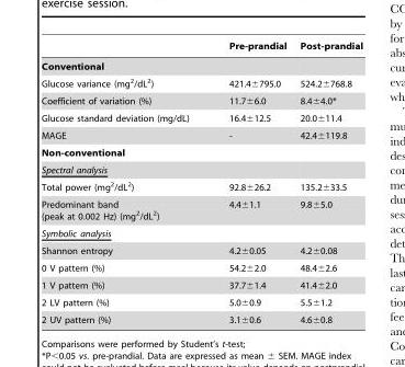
<table><thead><tr><td></td><td>Pre-prandial</td><td>Post-prandial</td></tr></thead><tbody><tr><td colspan="3">Conventional</td></tr><tr><td>Glucose variance (mg<sup>2</sup>/dL<sup>2</sup>)</td><td>421.4±795.0</td><td>524.2±768.8</td></tr><tr><td>Coefficient of variation (%)</td><td>11.7±6.0</td><td>8.4±4.0*</td></tr><tr><td>Glucose standard deviation (mg/dL)</td><td>16.4±12.5</td><td>20.0±11.4</td></tr><tr><td>MAGE</td><td>-</td><td>42.4±119.8</td></tr><tr><td colspan="3">Non-conventional</td></tr><tr><td colspan="3">Spectral analysis</td></tr><tr><td>Total power (mg<sup>2</sup>/dL<sup>2</sup>)</td><td>92.8±26.2</td><td>135.2±33.5</td></tr><tr><td>Predominant band (peak at 0.002 Hz) (mg<sup>2</sup>/dL<sup>2</sup>)</td><td>4.4±1.1</td><td>9.8±5.0</td></tr><tr><td colspan="3">Symbolic analysis</td></tr><tr><td>Shannon entropy</td><td>4.2±0.05</td><td>4.2±0.08</td></tr><tr><td>0 V pattern (%)</td><td>54.2±2.0</td><td>48.4±2.6</td></tr><tr><td>1 V pattern (%)</td><td>37.7±1.4</td><td>41.4±2.0</td></tr><tr><td>2 LV pattern (%)</td><td>5.0±0.9</td><td>5.5±1.2</td></tr><tr><td>2 UV pattern (%)</td><td>3.1±0.6</td><td>4.6±0.8</td></tr></tbody></table>